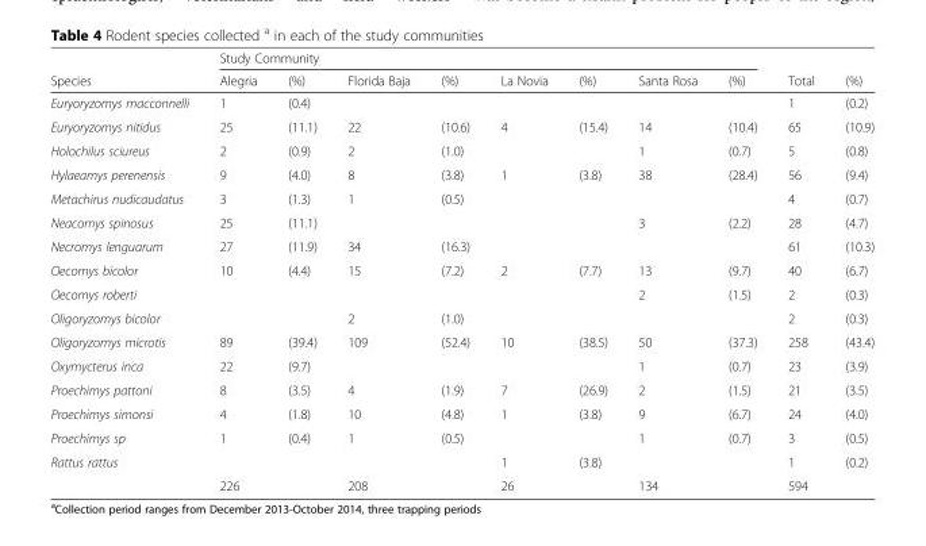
<table><thead><tr><td rowspan="2">Species</td><td colspan="8">Study Community</td><td rowspan="2">Total</td><td rowspan="2">(%)</td></tr><tr><td>Alegria</td><td>(%)</td><td>Florida Baja</td><td>(%)</td><td>La Novia</td><td>(%)</td><td>Santa Rosa</td><td>(%)</td></tr></thead><tbody><tr><td>Euryoryzomys macconnelli</td><td>1</td><td>(0.4)</td><td></td><td></td><td></td><td></td><td></td><td></td><td>1</td><td>(0.2)</td></tr><tr><td>Euryoryzomys nitidus</td><td>25</td><td>(11.1)</td><td>22</td><td>(10.6)</td><td>4</td><td>(15.4)</td><td>14</td><td>(10.4)</td><td>65</td><td>(10.9)</td></tr><tr><td>Holochilus sciureus</td><td>2</td><td>(0.9)</td><td>2</td><td>(1.0)</td><td></td><td></td><td>1</td><td>(0.7)</td><td>5</td><td>(0.8)</td></tr><tr><td>Hylaeamys perenensis</td><td>9</td><td>(4.0)</td><td>8</td><td>(3.8)</td><td>1</td><td>(3.8)</td><td>38</td><td>(28.4)</td><td>56</td><td>(9.4)</td></tr><tr><td>Metachirus nudicaudatus</td><td>3</td><td>(1.3)</td><td>1</td><td>(0.5)</td><td></td><td></td><td></td><td></td><td>4</td><td>(0.7)</td></tr><tr><td>Neacomys spinosus</td><td>25</td><td>(11.1)</td><td></td><td></td><td></td><td></td><td>3</td><td>(2.2)</td><td>28</td><td>(4.7)</td></tr><tr><td>Necromys lenguarum</td><td>27</td><td>(11.9)</td><td>34</td><td>(16.3)</td><td></td><td></td><td></td><td></td><td>61</td><td>(10.3)</td></tr><tr><td>Oecomys bicolor</td><td>10</td><td>(4.4)</td><td>15</td><td>(7.2)</td><td>2</td><td>(7.7)</td><td>13</td><td>(9.7)</td><td>40</td><td>(6.7)</td></tr><tr><td>Oecomys roberti</td><td></td><td></td><td></td><td></td><td></td><td></td><td>2</td><td>(1.5)</td><td>2</td><td>(0.3)</td></tr><tr><td>Oligoryzomys bicolor</td><td></td><td></td><td>2</td><td>(1.0)</td><td></td><td></td><td></td><td></td><td>2</td><td>(0.3)</td></tr><tr><td>Oligoryzomys microtis</td><td>89</td><td>(39.4)</td><td>109</td><td>(52.4)</td><td>10</td><td>(38.5)</td><td>50</td><td>(37.3)</td><td>258</td><td>(43.4)</td></tr><tr><td>Oxymycterus inca</td><td>22</td><td>(9.7)</td><td></td><td></td><td></td><td></td><td>1</td><td>(0.7)</td><td>23</td><td>(3.9)</td></tr><tr><td>Proechimys pattoni</td><td>8</td><td>(3.5)</td><td>4</td><td>(1.9)</td><td>7</td><td>(26.9)</td><td>2</td><td>(1.5)</td><td>21</td><td>(3.5)</td></tr><tr><td>Proechimys simonsi</td><td>4</td><td>(1.8)</td><td>10</td><td>(4.8)</td><td>1</td><td>(3.8)</td><td>9</td><td>(6.7)</td><td>24</td><td>(4.0)</td></tr><tr><td>Proechimys sp</td><td>1</td><td>(0.4)</td><td>1</td><td>(0.5)</td><td></td><td></td><td>1</td><td>(0.7)</td><td>3</td><td>(0.5)</td></tr><tr><td rowspan="2">Rattus rattus</td><td></td><td></td><td></td><td></td><td>1</td><td>(3.8)</td><td></td><td></td><td>1</td><td>(0.2)</td></tr><tr><td>226</td><td></td><td>208</td><td></td><td>26</td><td></td><td>134</td><td></td><td>594</td><td></td></tr></tbody></table>